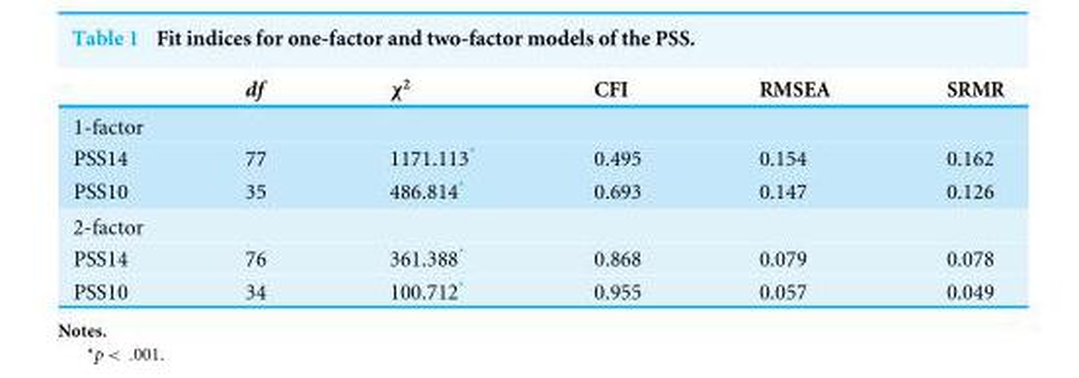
<table><thead><tr><td></td><td>df</td><td>χ<sup>2</sup></td><td>CFI</td><td>RMSEA</td><td>SRMR</td></tr></thead><tbody><tr><td colspan="6">1-factor</td></tr><tr><td>PSS14</td><td>77</td><td>1171.113*</td><td>0.495</td><td>0.154</td><td>0.162</td></tr><tr><td>PSS10</td><td>35</td><td>486.814*</td><td>0.693</td><td>0.147</td><td>0.126</td></tr><tr><td colspan="6">2-factor</td></tr><tr><td>PSS14</td><td>76</td><td>361.388*</td><td>0.868</td><td>0.079</td><td>0.078</td></tr><tr><td>PSS10</td><td>34</td><td>100.712*</td><td>0.955</td><td>0.057</td><td>0.049</td></tr></tbody></table>